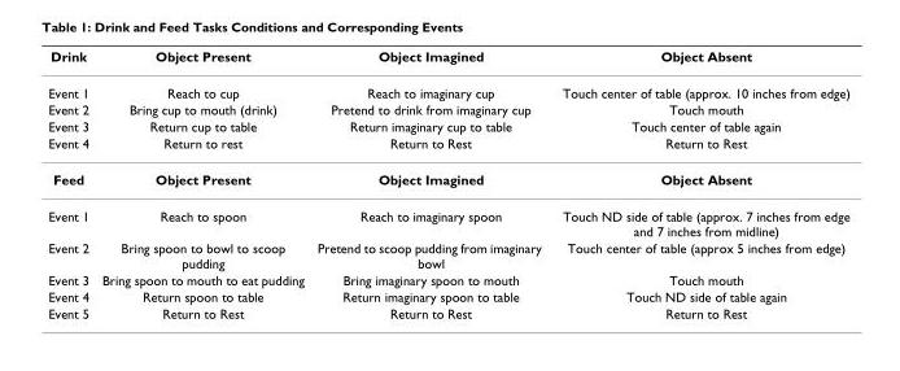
<table><thead><tr><td>Drink</td><td>Object Present</td><td>Object Imagined</td><td>Object Absent</td></tr></thead><tbody><tr><td>Event 1</td><td>Reach to cup</td><td>Reach to imaginary cup</td><td>Touch center of table (approx. 10 inches from edge)</td></tr><tr><td>Event 2</td><td>Bring cup to mouth (drink)</td><td>Pretend to drink from imaginary cup</td><td>Touch mouth</td></tr><tr><td>Event 3</td><td>Return cup to table</td><td>Return imaginary cup to table</td><td>Touch center of table again</td></tr><tr><td>Event 4</td><td>Return to rest</td><td>Return to Rest</td><td>Return to Rest</td></tr><tr><td>Feed</td><td>Object Present</td><td>Object Imagined</td><td>Object Absent</td></tr><tr><td>Event 1</td><td>Reach to spoon</td><td>Reach to imaginary spoon</td><td>Touch ND side of table (approx. 7 inches from edge and 7 inches from midline)</td></tr><tr><td>Event 2</td><td>Bring spoon to bowl to scoop pudding</td><td>Pretend to scoop pudding from imaginary bowl</td><td>Touch center of table (approx 5 inches from edge)</td></tr><tr><td>Event 3</td><td>Bring spoon to mouth to eat pudding</td><td>Bring imaginary spoon to mouth</td><td>Touch mouth</td></tr><tr><td>Event 4</td><td>Return spoon to table</td><td>Return imaginary spoon to table</td><td>Touch ND side of table again</td></tr><tr><td>Event 5</td><td>Return to Rest</td><td>Return to Rest</td><td>Return to Rest</td></tr></tbody></table>